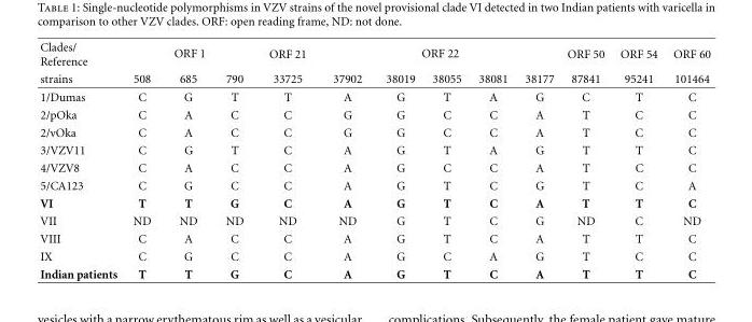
<table><thead><tr><td rowspan="2">Clades/ Reference strains</td><td colspan="3">ORF 1</td><td rowspan="2">ORF 21 33725</td><td colspan="5">ORF 22</td><td rowspan="2">ORF 50 87841</td><td rowspan="2">ORF 54 95241</td><td rowspan="2">ORF 60 101464</td></tr><tr><td>508</td><td>685</td><td>790</td><td>37902</td><td>38019</td><td>38055</td><td>38081</td><td>38177</td></tr></thead><tbody><tr><td>1/Dumas</td><td>C</td><td>G</td><td>T</td><td>T</td><td>A</td><td>G</td><td>T</td><td>A</td><td>G</td><td>C</td><td>T</td><td>C</td></tr><tr><td>2/pOka</td><td>C</td><td>A</td><td>C</td><td>C</td><td>G</td><td>G</td><td>C</td><td>C</td><td>A</td><td>T</td><td>C</td><td>C</td></tr><tr><td>2/vOka</td><td>C</td><td>A</td><td>C</td><td>C</td><td>G</td><td>G</td><td>C</td><td>C</td><td>A</td><td>T</td><td>C</td><td>C</td></tr><tr><td>3/VZV11</td><td>C</td><td>G</td><td>T</td><td>C</td><td>A</td><td>G</td><td>T</td><td>A</td><td>G</td><td>T</td><td>T</td><td>C</td></tr><tr><td>4/VZV8</td><td>C</td><td>A</td><td>C</td><td>C</td><td>A</td><td>G</td><td>C</td><td>C</td><td>A</td><td>T</td><td>C</td><td>C</td></tr><tr><td>5/CA123</td><td>C</td><td>G</td><td>C</td><td>C</td><td>A</td><td>G</td><td>T</td><td>C</td><td>G</td><td>T</td><td>C</td><td>A</td></tr><tr><td>VI</td><td>T</td><td>T</td><td>G</td><td>C</td><td>A</td><td>G</td><td>T</td><td>C</td><td>A</td><td>T</td><td>T</td><td>C</td></tr><tr><td>VII</td><td>ND</td><td>ND</td><td>ND</td><td>ND</td><td>ND</td><td>G</td><td>T</td><td>C</td><td>G</td><td>ND</td><td>C</td><td>ND</td></tr><tr><td>VIII</td><td>C</td><td>A</td><td>C</td><td>C</td><td>A</td><td>G</td><td>T</td><td>C</td><td>A</td><td>T</td><td>T</td><td>C</td></tr><tr><td>IX</td><td>C</td><td>G</td><td>C</td><td>C</td><td>A</td><td>G</td><td>C</td><td>A</td><td>G</td><td>T</td><td>C</td><td>C</td></tr><tr><td>Indian patients</td><td>T</td><td>T</td><td>G</td><td>C</td><td>A</td><td>G</td><td>T</td><td>C</td><td>A</td><td>T</td><td>T</td><td>C</td></tr></tbody></table>